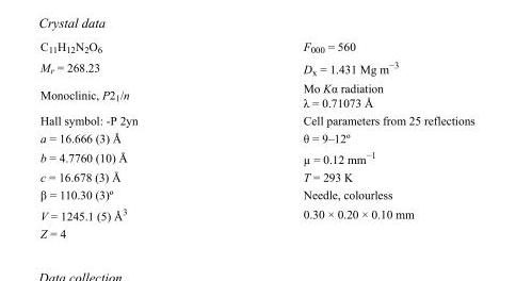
<table><tbody><tr><td>C<sub>11</sub>H<sub>12</sub>N<sub>2</sub>O<sub>6</sub></td><td>F000 = 560</td></tr><tr><td>M<sub>r</sub> = 268.23</td><td>D<sub>x</sub> = 1.431 Mg m<sup>−3</sup></td></tr><tr><td>Monoclinic, P2<sub>1</sub>/n</td><td>Mo Kα radiation λ = 0.71073 Å</td></tr><tr><td>Hall symbol: -P 2yn</td><td>Cell parameters from 25 reflections</td></tr><tr><td>a = 16.666 (3) Å</td><td>θ = 9–12º</td></tr><tr><td>b = 4.7760 (10) Å</td><td>µ = 0.12 mm<sup>−1</sup></td></tr><tr><td>c = 16.678 (3) Å</td><td>T = 293 K</td></tr><tr><td>β = 110.30 (3)º</td><td>Needle, colourless</td></tr><tr><td>V = 1245.1 (5) Å<sup>3</sup></td><td>0.30 × 0.20 × 0.10 mm</td></tr><tr><td>Z = 4</td><td></td></tr></tbody></table>